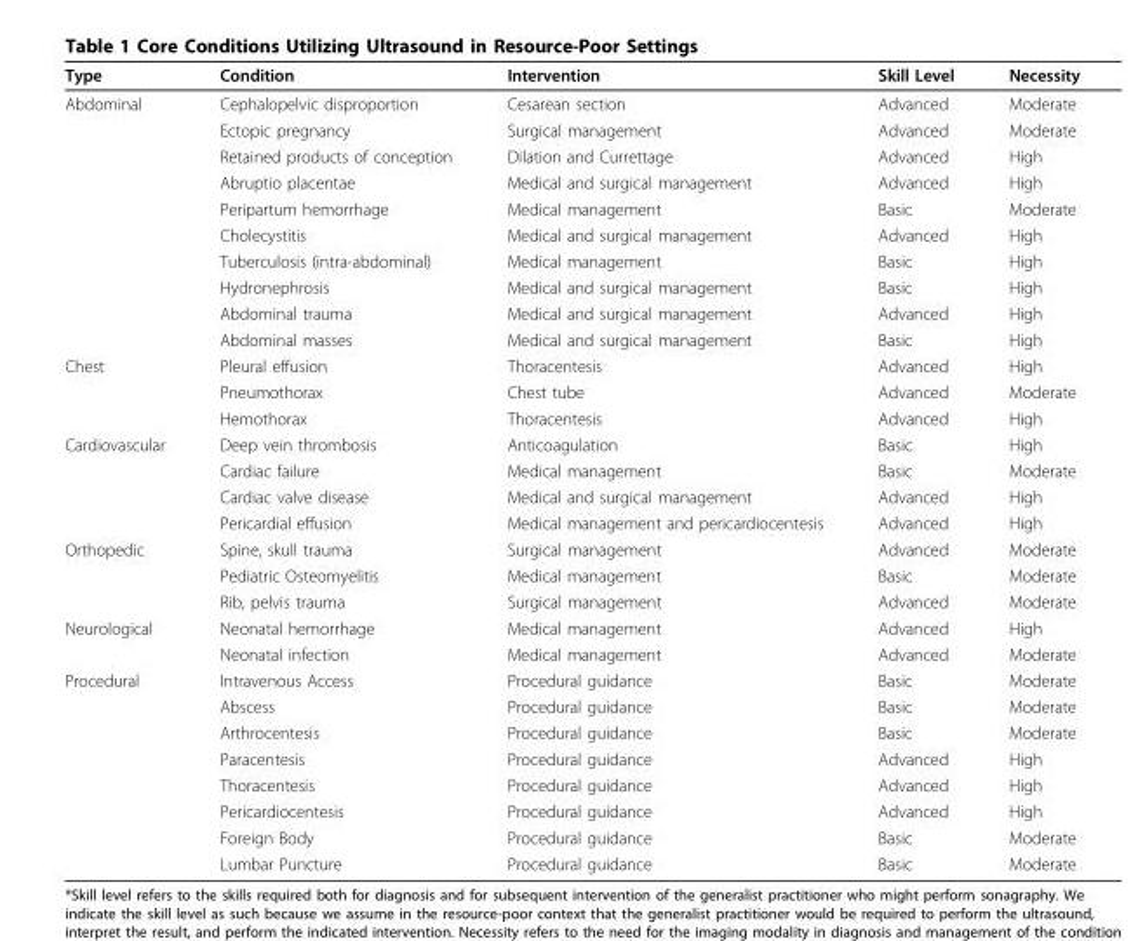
<table><thead><tr><td>Type</td><td>Condition</td><td>Intervention</td><td>Skill Level</td><td>Necessity</td></tr></thead><tbody><tr><td rowspan="10">Abdominal</td><td>Cephalopelvic disproportion</td><td>Cesarean section</td><td>Advanced</td><td>Moderate</td></tr><tr><td>Ectopic pregnancy</td><td>Surgical management</td><td>Advanced</td><td>Moderate</td></tr><tr><td>Retained products of conception</td><td>Dilation and Currettage</td><td>Advanced</td><td>High</td></tr><tr><td>Abruptio placentae</td><td>Medical and surgical management</td><td>Advanced</td><td>High</td></tr><tr><td>Peripartum hemorrhage</td><td>Medical management</td><td>Basic</td><td>Moderate</td></tr><tr><td>Cholecystitis</td><td>Medical and surgical management</td><td>Advanced</td><td>High</td></tr><tr><td>Tuberculosis (intra-abdominal)</td><td>Medical management</td><td>Basic</td><td>High</td></tr><tr><td>Hydronephrosis</td><td>Medical and surgical management</td><td>Basic</td><td>High</td></tr><tr><td>Abdominal trauma</td><td>Medical and surgical management</td><td>Advanced</td><td>High</td></tr><tr><td>Abdominal masses</td><td>Medical and surgical management</td><td>Basic</td><td>High</td></tr><tr><td rowspan="3">Chest</td><td>Pleural effusion</td><td>Thoracentesis</td><td>Advanced</td><td>High</td></tr><tr><td>Pneumothorax</td><td>Chest tube</td><td>Advanced</td><td>Moderate</td></tr><tr><td>Hemothorax</td><td>Thoracentesis</td><td>Advanced</td><td>High</td></tr><tr><td rowspan="4">Cardiovascular</td><td>Deep vein thrombosis</td><td>Anticoagulation</td><td>Basic</td><td>High</td></tr><tr><td>Cardiac failure</td><td>Medical management</td><td>Basic</td><td>Moderate</td></tr><tr><td>Cardiac valve disease</td><td>Medical and surgical management</td><td>Advanced</td><td>High</td></tr><tr><td>Pericardial effusion</td><td>Medical management and pericardiocentesis</td><td>Advanced</td><td>High</td></tr><tr><td rowspan="3">Orthopedic</td><td>Spine, skull trauma</td><td>Surgical management</td><td>Advanced</td><td>Moderate</td></tr><tr><td>Pediatric Osteomyelitis</td><td>Medical management</td><td>Basic</td><td>Moderate</td></tr><tr><td>Rib, pelvis trauma</td><td>Surgical management</td><td>Advanced</td><td>Moderate</td></tr><tr><td rowspan="2">Neurological</td><td>Neonatal hemorrhage</td><td>Medical management</td><td>Advanced</td><td>High</td></tr><tr><td>Neonatal infection</td><td>Medical management</td><td>Advanced</td><td>Moderate</td></tr><tr><td rowspan="8">Procedural</td><td>Intravenous Access</td><td>Procedural guidance</td><td>Basic</td><td>Moderate</td></tr><tr><td>Abscess</td><td>Procedural guidance</td><td>Basic</td><td>Moderate</td></tr><tr><td>Arthrocentesis</td><td>Procedural guidance</td><td>Basic</td><td>Moderate</td></tr><tr><td>Paracentesis</td><td>Procedural guidance</td><td>Advanced</td><td>High</td></tr><tr><td>Thoracentesis</td><td>Procedural guidance</td><td>Advanced</td><td>High</td></tr><tr><td>Pericardiocentesis</td><td>Procedural guidance</td><td>Advanced</td><td>High</td></tr><tr><td>Foreign Body</td><td>Procedural guidance</td><td>Basic</td><td>Moderate</td></tr><tr><td>Lumbar Puncture</td><td>Procedural guidance</td><td>Basic</td><td>Moderate</td></tr></tbody></table>